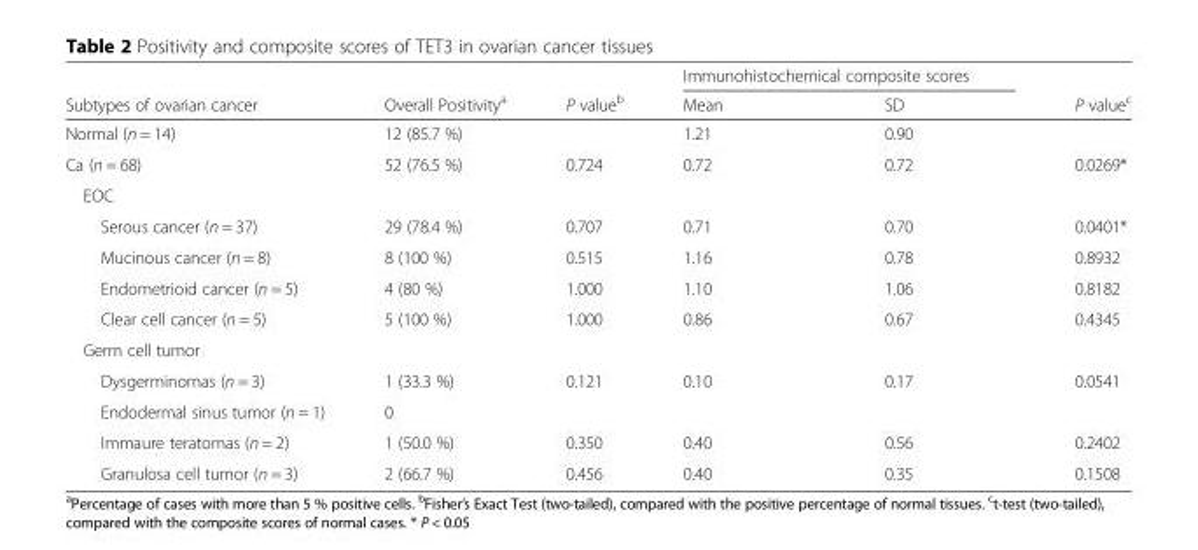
<table><thead><tr><td rowspan="2">Subtypes of ovarian cancer</td><td rowspan="2">Overall Positivity<sup>a</sup></td><td rowspan="2">P value<sup>b</sup></td><td colspan="2">Immunohistochemical composite scores</td><td rowspan="2">P value<sup>c</sup></td></tr><tr><td>Mean</td><td>SD</td></tr></thead><tbody><tr><td>Normal (n = 14)</td><td>12 (85.7 %)</td><td></td><td>1.21</td><td>0.90</td><td></td></tr><tr><td>Ca (n = 68)</td><td>52 (76.5 %)</td><td>0.724</td><td>0.72</td><td>0.72</td><td>0.0269*</td></tr><tr><td colspan="6">EOC</td></tr><tr><td>Serous cancer (n = 37)</td><td>29 (78.4 %)</td><td>0.707</td><td>0.71</td><td>0.70</td><td>0.0401*</td></tr><tr><td>Mucinous cancer (n = 8)</td><td>8 (100 %)</td><td>0.515</td><td>1.16</td><td>0.78</td><td>0.8932</td></tr><tr><td>Endometrioid cancer (n = 5)</td><td>4 (80 %)</td><td>1.000</td><td>1.10</td><td>1.06</td><td>0.8182</td></tr><tr><td>Clear cell cancer (n = 5)</td><td>5 (100 %)</td><td>1.000</td><td>0.86</td><td>0.67</td><td>0.4345</td></tr><tr><td colspan="6">Germ cell tumor</td></tr><tr><td>Dysgerminomas (n = 3)</td><td>1 (33.3 %)</td><td>0.121</td><td>0.10</td><td>0.17</td><td>0.0541</td></tr><tr><td>Endodermal sinus tumor (n = 1)</td><td>0</td><td></td><td></td><td></td><td></td></tr><tr><td>Immaure teratomas (n = 2)</td><td>1 (50.0 %)</td><td>0.350</td><td>0.40</td><td>0.56</td><td>0.2402</td></tr><tr><td>Granulosa cell tumor (n = 3)</td><td>2 (66.7 %)</td><td>0.456</td><td>0.40</td><td>0.35</td><td>0.1508</td></tr></tbody></table>